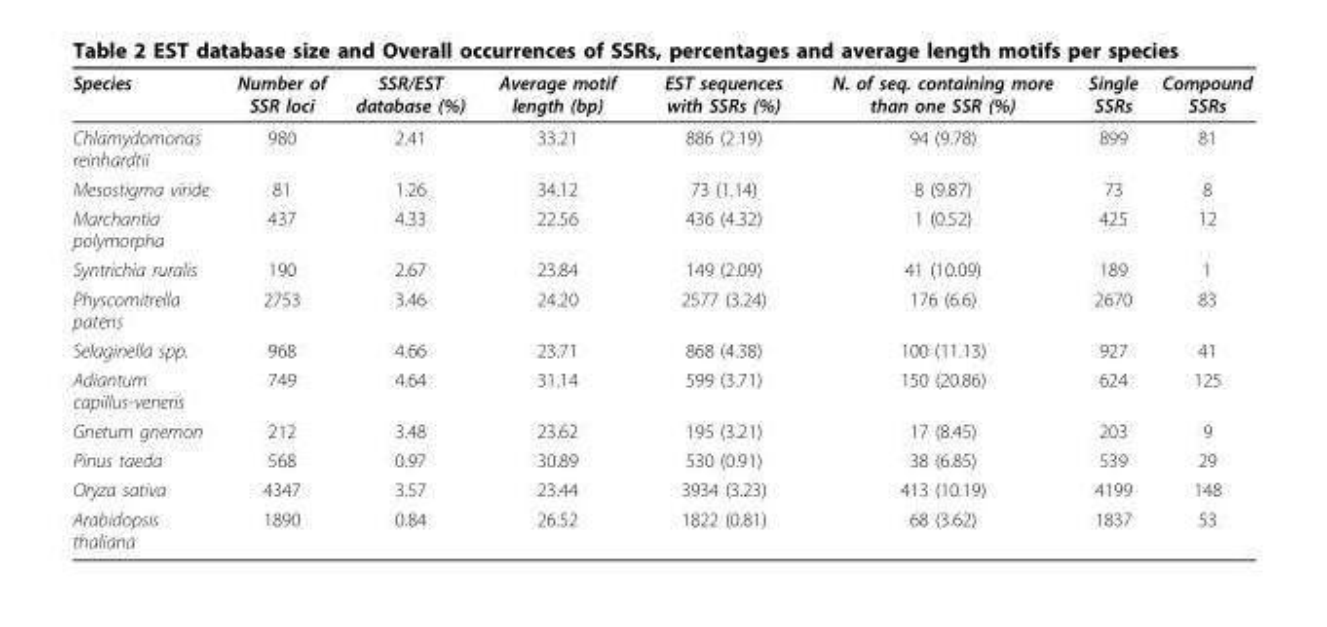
<table><thead><tr><td>Species</td><td>Number of SSR loci</td><td>SSR/EST database (%)</td><td>Average motif length (bp)</td><td>EST sequences with SSRs (%)</td><td>N. of seq. containing more than one SSR (%)</td><td>Single SSRs</td><td>Compound SSRs</td></tr></thead><tbody><tr><td>Chlamydomonas reinhardtii</td><td>980</td><td>2.41</td><td>33.21</td><td>886 (2.19)</td><td>94 (9.78)</td><td>899</td><td>81</td></tr><tr><td>Mesostigma viride</td><td>81</td><td>1.26</td><td>34.12</td><td>73 (1.14)</td><td>8 (9.87)</td><td>73</td><td>8</td></tr><tr><td>Marchantia polymorpha</td><td>437</td><td>4.33</td><td>22.56</td><td>436 (4.32)</td><td>1 (0.52)</td><td>425</td><td>12</td></tr><tr><td>Syntrichia ruralis</td><td>190</td><td>2.67</td><td>23.84</td><td>149 (2.09)</td><td>41 (10.09)</td><td>189</td><td>1</td></tr><tr><td>Physcomitrella patens</td><td>2753</td><td>3.46</td><td>24.20</td><td>2577 (3.24)</td><td>176 (6.6)</td><td>2670</td><td>83</td></tr><tr><td>Selaginella spp.</td><td>968</td><td>4.66</td><td>23.71</td><td>868 (4.38)</td><td>100 (11.13)</td><td>927</td><td>41</td></tr><tr><td>Adiantum capillus-veneris</td><td>749</td><td>4.64</td><td>31.14</td><td>599 (3.71)</td><td>150 (20.86)</td><td>624</td><td>125</td></tr><tr><td>Gnetum gnemon</td><td>212</td><td>3.48</td><td>23.62</td><td>195 (3.21)</td><td>17 (8.45)</td><td>203</td><td>9</td></tr><tr><td>Pinus taeda</td><td>568</td><td>0.97</td><td>30.89</td><td>530 (0.91)</td><td>38 (6.85)</td><td>539</td><td>29</td></tr><tr><td>Oryza sativa</td><td>4347</td><td>3.57</td><td>23.44</td><td>3934 (3.23)</td><td>413 (10.19)</td><td>4199</td><td>148</td></tr><tr><td>Arabidopsis thaliana</td><td>1890</td><td>0.84</td><td>26.52</td><td>1822 (0.81)</td><td>68 (3.62)</td><td>1837</td><td>53</td></tr></tbody></table>